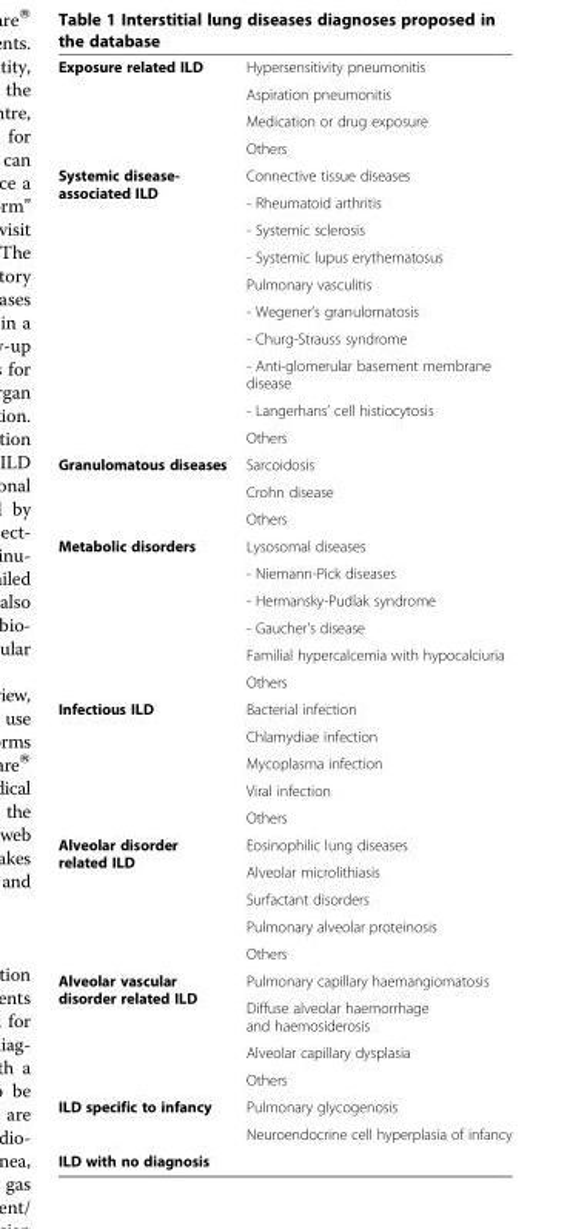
<table><tbody><tr><td rowspan="4">Exposure related ILD</td><td>Hypersensitivity pneumonitis</td></tr><tr><td>Aspiration pneumonitis</td></tr><tr><td>Medication or drug exposure</td></tr><tr><td>Others</td></tr><tr><td rowspan="10">Systemic disease- associated ILD</td><td>Connective tissue diseases</td></tr><tr><td>- Rheumatoid arthritis</td></tr><tr><td>- Systemic sclerosis</td></tr><tr><td>- Systemic lupus erythematosus</td></tr><tr><td>Pulmonary vasculitis</td></tr><tr><td>- Wegener’s granulomatosis</td></tr><tr><td>- Churg-Strauss syndrome</td></tr><tr><td>- Anti-glomerular basement membrane disease</td></tr><tr><td>- Langerhans’ cell histiocytosis</td></tr><tr><td>Others</td></tr><tr><td rowspan="3">Granulomatous diseases</td><td>Sarcoidosis</td></tr><tr><td>Crohn disease</td></tr><tr><td>Others</td></tr><tr><td rowspan="6">Metabolic disorders</td><td>Lysosomal diseases</td></tr><tr><td>- Niemann-Pick diseases</td></tr><tr><td>- Hermansky-Pudlak syndrome</td></tr><tr><td>- Gaucher&#x27;s disease</td></tr><tr><td>Familial hypercalcemia with hypocalciuria</td></tr><tr><td>Others</td></tr><tr><td rowspan="5">Infectious ILD</td><td>Bacterial infection</td></tr><tr><td>Chlamydiae infection</td></tr><tr><td>Mycoplasma infection</td></tr><tr><td>Viral infection</td></tr><tr><td>Others</td></tr><tr><td rowspan="5">Alveolar disorder related ILD</td><td>Eosinophilic lung diseases</td></tr><tr><td>Alveolar microlithiasis</td></tr><tr><td>Surfactant disorders</td></tr><tr><td>Pulmonary alveolar proteinosis</td></tr><tr><td>Others</td></tr><tr><td rowspan="4">Alveolar vascular disorder related ILD</td><td>Pulmonary capillary haemangiomatosis</td></tr><tr><td>Diffuse alveolar haemorrhage and haemosiderosis</td></tr><tr><td>Alveolar capillary dysplasia</td></tr><tr><td>Others</td></tr><tr><td rowspan="2">ILD specific to infancy</td><td>Pulmonary glycogenosis</td></tr><tr><td>Neuroendocrine cell hyperplasia of infancy</td></tr><tr><td>ILD with no diagnosis</td><td></td></tr></tbody></table>